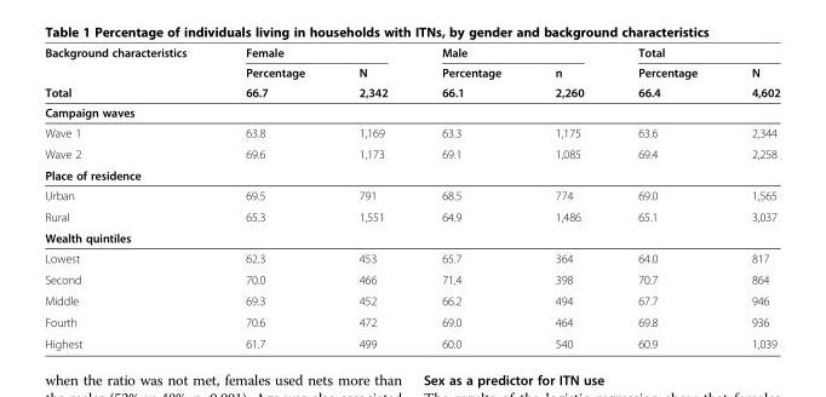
<table><thead><tr><td rowspan="3">Background characteristics Total</td><td colspan="2">Female</td><td colspan="2">Male</td><td colspan="2">Total</td></tr><tr><td rowspan="2">Percentage 66.7</td><td rowspan="2">N 2,342</td><td rowspan="2">Percentage 66.1</td><td rowspan="2">n 2,260</td><td rowspan="2">Percentage 66.4</td><td rowspan="2">N 4,602</td></tr><tr></tr></thead><tbody><tr><td colspan="7">Campaign waves</td></tr><tr><td>Wave 1</td><td>63.8</td><td>1,169</td><td>63.3</td><td>1,175</td><td>63.6</td><td>2,344</td></tr><tr><td>Wave 2</td><td>69.6</td><td>1,173</td><td>69.1</td><td>1,085</td><td>69.4</td><td>2,258</td></tr><tr><td colspan="7">Place of residence</td></tr><tr><td>Urban</td><td>69.5</td><td>791</td><td>68.5</td><td>774</td><td>69.0</td><td>1,565</td></tr><tr><td>Rural</td><td>65.3</td><td>1,551</td><td>64.9</td><td>1,486</td><td>65.1</td><td>3,037</td></tr><tr><td colspan="7">Wealth quintiles</td></tr><tr><td>Lowest</td><td>62.3</td><td>453</td><td>65.7</td><td>364</td><td>64.0</td><td>817</td></tr><tr><td>Second</td><td>70.0</td><td>466</td><td>71.4</td><td>398</td><td>70.7</td><td>864</td></tr><tr><td>Middle</td><td>69.3</td><td>452</td><td>66.2</td><td>494</td><td>67.7</td><td>946</td></tr><tr><td>Fourth</td><td>70.6</td><td>472</td><td>69.0</td><td>464</td><td>69.8</td><td>936</td></tr><tr><td>Highest</td><td>61.7</td><td>499</td><td>60.0</td><td>540</td><td>60.9</td><td>1,039</td></tr></tbody></table>